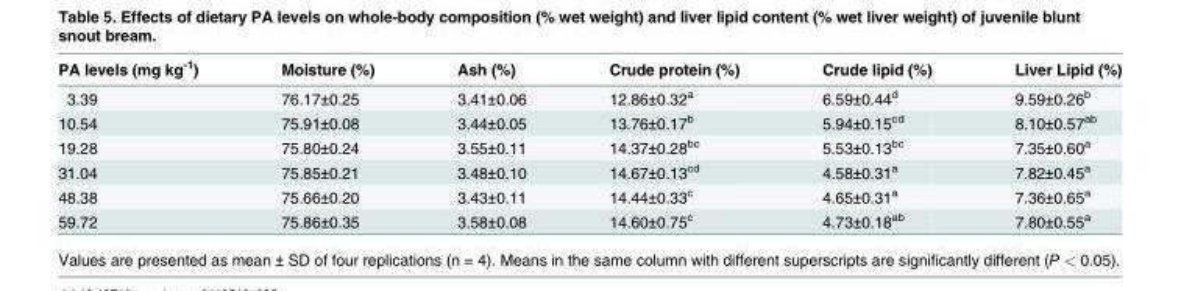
<table><thead><tr><td>PA levels (mg kg<sup>-1</sup>)</td><td>Moisture (%)</td><td>Ash (%)</td><td>Crude protein (%)</td><td>Crude lipid (%)</td><td>Liver Lipid (%)</td></tr></thead><tbody><tr><td>3.39</td><td>76.17±0.25</td><td>3.41±0.06</td><td>12.86±0.32<sup>a</sup></td><td>6.59±0.44<sup>d</sup></td><td>9.59±0.26<sup>b</sup></td></tr><tr><td>10.54</td><td>75.91±0.08</td><td>3.44±0.05</td><td>13.76±0.17<sup>b</sup></td><td>5.94±0.15<sup>cd</sup></td><td>8.10±0.57<sup>ab</sup></td></tr><tr><td>19.28</td><td>75.80±0.24</td><td>3.55±0.11</td><td>14.37±0.28<sup>bc</sup></td><td>5.53±0.13<sup>bc</sup></td><td>7.35±0.60<sup>a</sup></td></tr><tr><td>31.04</td><td>75.85±0.21</td><td>3.48±0.10</td><td>14.67±0.13<sup>cd</sup></td><td>4.58±0.31<sup>a</sup></td><td>7.82±0.45<sup>a</sup></td></tr><tr><td>48.38</td><td>75.66±0.20</td><td>3.43±0.11</td><td>14.44±0.33<sup>c</sup></td><td>4.65±0.31<sup>a</sup></td><td>7.36±0.65<sup>a</sup></td></tr><tr><td>59.72</td><td>75.86±0.35</td><td>3.58±0.08</td><td>14.60±0.75<sup>c</sup></td><td>4.73±0.18<sup>ab</sup></td><td>7.80±0.55<sup>a</sup></td></tr></tbody></table>